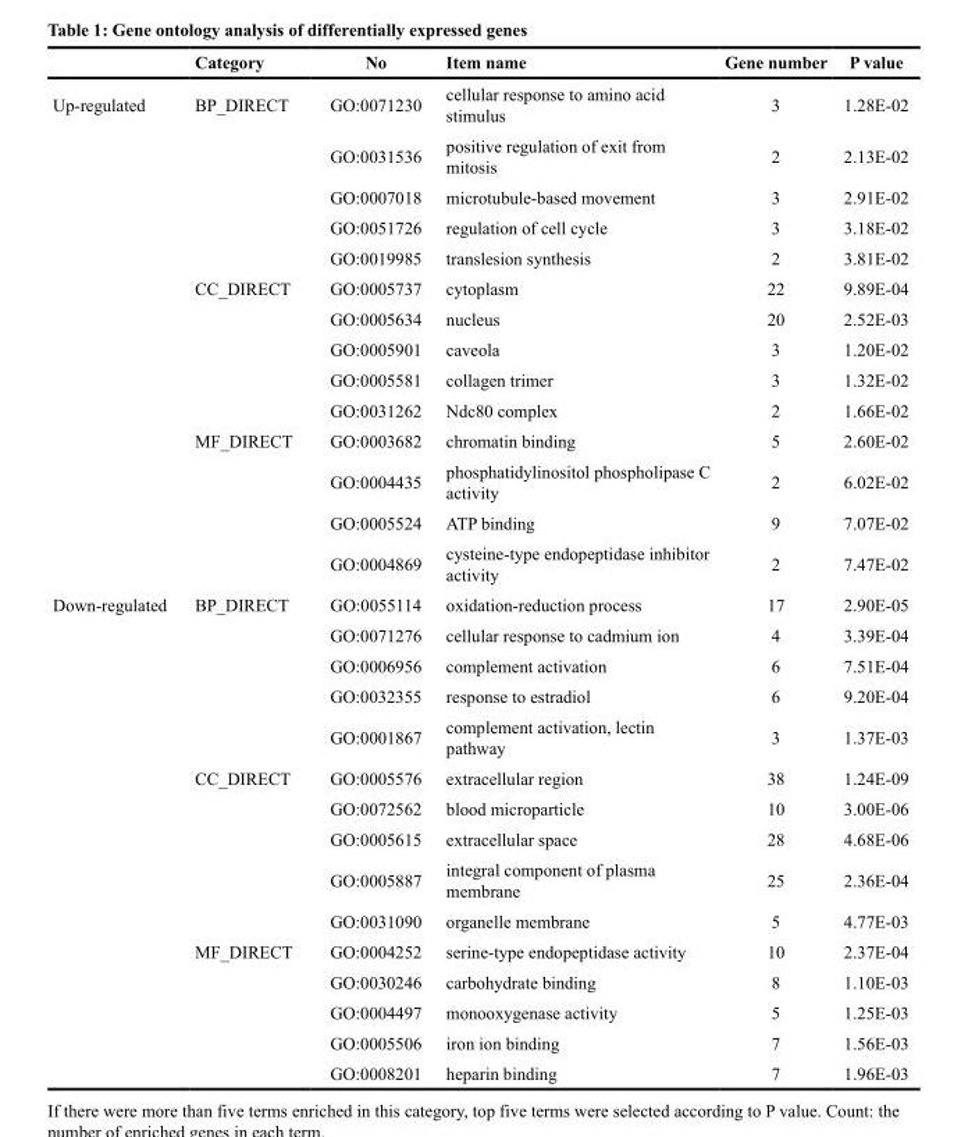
<table><thead><tr><td></td><td>Category</td><td>No</td><td>Item name</td><td>Gene number</td><td>P value</td></tr></thead><tbody><tr><td rowspan="14">Up-regulated</td><td>BP_DIRECT</td><td>GO:0071230</td><td>cellular response to amino acid stimulus</td><td>3</td><td>1.28E-02</td></tr><tr><td></td><td>GO:0031536</td><td>positive regulation of exit from mitosis</td><td>2</td><td>2.13E-02</td></tr><tr><td></td><td>GO:0007018</td><td>microtubule-based movement</td><td>3</td><td>2.91E-02</td></tr><tr><td></td><td>GO:0051726</td><td>regulation of cell cycle</td><td>3</td><td>3.18E-02</td></tr><tr><td></td><td>GO:0019985</td><td>translesion synthesis</td><td>2</td><td>3.81E-02</td></tr><tr><td>CC_DIRECT</td><td>GO:0005737</td><td>cytoplasm</td><td>22</td><td>9.89E-04</td></tr><tr><td></td><td>GO:0005634</td><td>nucleus</td><td>20</td><td>2.52E-03</td></tr><tr><td></td><td>GO:0005901</td><td>caveola</td><td>3</td><td>1.20E-02</td></tr><tr><td></td><td>GO:0005581</td><td>collagen trimer</td><td>3</td><td>1.32E-02</td></tr><tr><td></td><td>GO:0031262</td><td>Ndc80 complex</td><td>2</td><td>1.66E-02</td></tr><tr><td>MF_DIRECT</td><td>GO:0003682</td><td>chromatin binding</td><td>5</td><td>2.60E-02</td></tr><tr><td></td><td>GO:0004435</td><td>phosphatidylinositol phospholipase C activity</td><td>2</td><td>6.02E-02</td></tr><tr><td></td><td>GO:0005524</td><td>ATP binding</td><td>9</td><td>7.07E-02</td></tr><tr><td></td><td>GO:0004869</td><td>cysteine-type endopeptidase inhibitor activity</td><td>2</td><td>7.47E-02</td></tr><tr><td rowspan="15">Down-regulated</td><td>BP_DIRECT</td><td>GO:0055114</td><td>oxidation-reduction process</td><td>17</td><td>2.90E-05</td></tr><tr><td></td><td>GO:0071276</td><td>cellular response to cadmium ion</td><td>4</td><td>3.39E-04</td></tr><tr><td></td><td>GO:0006956</td><td>complement activation</td><td>6</td><td>7.51E-04</td></tr><tr><td></td><td>GO:0032355</td><td>response to estradiol</td><td>6</td><td>9.20E-04</td></tr><tr><td></td><td>GO:0001867</td><td>complement activation, lectin pathway</td><td>3</td><td>1.37E-03</td></tr><tr><td>CC_DIRECT</td><td>GO:0005576</td><td>extracellular region</td><td>38</td><td>1.24E-09</td></tr><tr><td></td><td>GO:0072562</td><td>blood microparticle</td><td>10</td><td>3.00E-06</td></tr><tr><td></td><td>GO:0005615</td><td>extracellular space</td><td>28</td><td>4.68E-06</td></tr><tr><td></td><td>GO:0005887</td><td>integral component of plasma membrane</td><td>25</td><td>2.36E-04</td></tr><tr><td></td><td>GO:0031090</td><td>organelle membrane</td><td>5</td><td>4.77E-03</td></tr><tr><td>MF_DIRECT</td><td>GO:0004252</td><td>serine-type endopeptidase activity</td><td>10</td><td>2.37E-04</td></tr><tr><td></td><td>GO:0030246</td><td>carbohydrate binding</td><td>8</td><td>1.10E-03</td></tr><tr><td></td><td>GO:0004497</td><td>monooxygenase activity</td><td>5</td><td>1.25E-03</td></tr><tr><td></td><td>GO:0005506</td><td>iron ion binding</td><td>7</td><td>1.56E-03</td></tr><tr><td></td><td>GO:0008201</td><td>heparin binding</td><td>7</td><td>1.96E-03</td></tr></tbody></table>